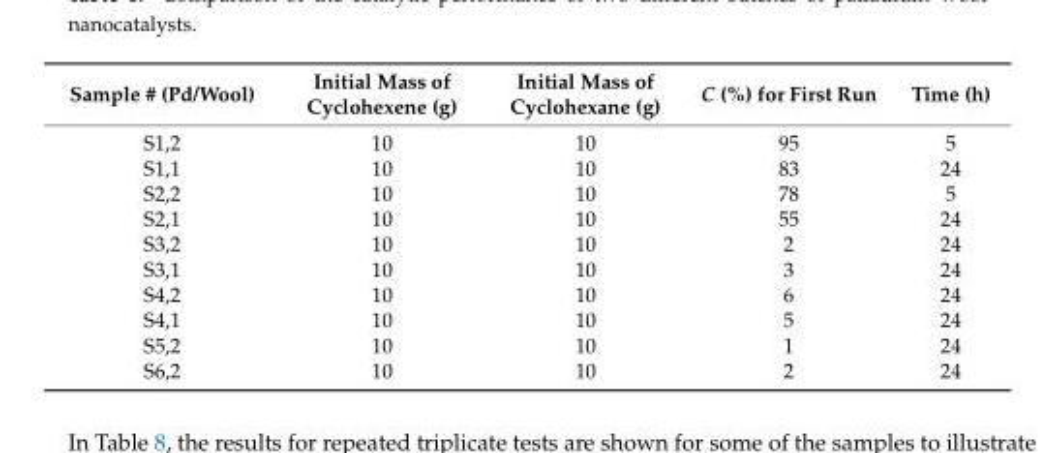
<table><thead><tr><td>Sample # (Pd/Wool)</td><td>Initial Mass of Cyclohexene (g)</td><td>Initial Mass of Cyclohexane (g)</td><td>C (%) for First Run</td><td>Time (h)</td></tr></thead><tbody><tr><td>S1,2</td><td>10</td><td>10</td><td>95</td><td>5</td></tr><tr><td>S1,1</td><td>10</td><td>10</td><td>83</td><td>24</td></tr><tr><td>S2,2</td><td>10</td><td>10</td><td>78</td><td>5</td></tr><tr><td>S2,1</td><td>10</td><td>10</td><td>55</td><td>24</td></tr><tr><td>S3,2</td><td>10</td><td>10</td><td>2</td><td>24</td></tr><tr><td>S3,1</td><td>10</td><td>10</td><td>3</td><td>24</td></tr><tr><td>S4,2</td><td>10</td><td>10</td><td>6</td><td>24</td></tr><tr><td>S4,1</td><td>10</td><td>10</td><td>5</td><td>24</td></tr><tr><td>S5,2</td><td>10</td><td>10</td><td>1</td><td>24</td></tr><tr><td>S6,2</td><td>10</td><td>10</td><td>2</td><td>24</td></tr></tbody></table>